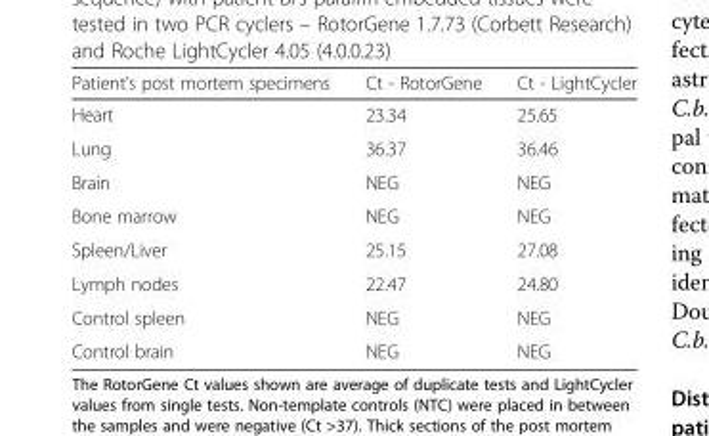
<table><thead><tr><td>Patient’s post mortem specimens</td><td>Ct - RotorGene</td><td>Ct - LightCycler</td></tr></thead><tbody><tr><td>Heart</td><td>23.34</td><td>25.65</td></tr><tr><td>Lung</td><td>36.37</td><td>36.46</td></tr><tr><td>Brain</td><td>NEG</td><td>NEG</td></tr><tr><td>Bone marrow</td><td>NEG</td><td>NEG</td></tr><tr><td>Spleen/Liver</td><td>25.15</td><td>27.08</td></tr><tr><td>Lymph nodes</td><td>22.47</td><td>24.80</td></tr><tr><td>Control spleen</td><td>NEG</td><td>NEG</td></tr><tr><td>Control brain</td><td>NEG</td><td>NEG</td></tr></tbody></table>